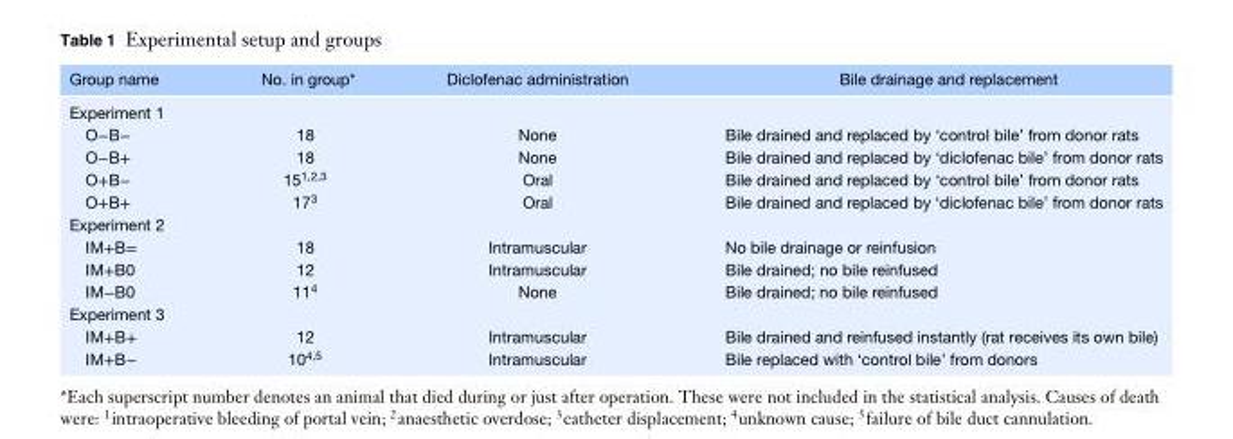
<table><thead><tr><td>Group name</td><td>No. in group*</td><td>Diclofenac administration</td><td>Bile drainage and replacement</td></tr></thead><tbody><tr><td colspan="4">Experiment 1</td></tr><tr><td>O−B−</td><td>18</td><td>None</td><td>Bile drained and replaced by ‘control bile’ from donor rats</td></tr><tr><td>O−B+</td><td>18</td><td>None</td><td>Bile drained and replaced by ‘diclofenac bile’ from donor rats</td></tr><tr><td>O+B−</td><td>15<sup>1,2,3</sup></td><td>Oral</td><td>Bile drained and replaced by ‘control bile’ from donor rats</td></tr><tr><td>O+B+</td><td>17<sup>3</sup></td><td>Oral</td><td>Bile drained and replaced by ‘diclofenac bile’ from donor rats</td></tr><tr><td colspan="4">Experiment 2</td></tr><tr><td>IM+B=</td><td>18</td><td>Intramuscular</td><td>No bile drainage or reinfusion</td></tr><tr><td>IM+B0</td><td>12</td><td>Intramuscular</td><td>Bile drained; no bile reinfused</td></tr><tr><td>IM−B0</td><td>11<sup>4</sup></td><td>None</td><td>Bile drained; no bile reinfused</td></tr><tr><td colspan="4">Experiment 3</td></tr><tr><td>IM+B+</td><td>12</td><td>Intramuscular</td><td>Bile drained and reinfused instantly (rat receives its own bile)</td></tr><tr><td>IM+B−</td><td>10<sup>4,5</sup></td><td>Intramuscular</td><td>Bile replaced with ‘control bile’ from donors</td></tr></tbody></table>